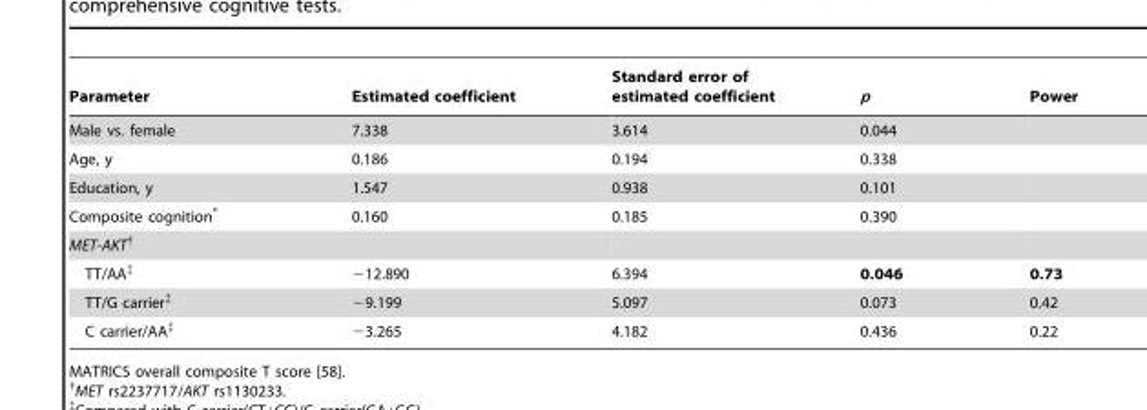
<table><thead><tr><td>Parameter</td><td>Estimated coefficient</td><td>Standard error of estimated coefficient</td><td>p</td><td>Power</td></tr></thead><tbody><tr><td>Male vs. female</td><td>7.338</td><td>3.614</td><td>0.044</td><td></td></tr><tr><td>Age, y</td><td>0.186</td><td>0.194</td><td>0.338</td><td></td></tr><tr><td>Education, y</td><td>1.547</td><td>0.938</td><td>0.101</td><td></td></tr><tr><td>Composite cognition*</td><td>0.160</td><td>0.185</td><td>0.390</td><td></td></tr><tr><td colspan="5">MET-AKT†</td></tr><tr><td>TT/AA‡</td><td>−12.890</td><td>6.394</td><td>0.046</td><td>0.73</td></tr><tr><td>TT/G carrier‡</td><td>−9.199</td><td>5.097</td><td>0.073</td><td>0.42</td></tr><tr><td>C carrier/AA‡</td><td>−3.265</td><td>4.182</td><td>0.436</td><td>0.22</td></tr></tbody></table>